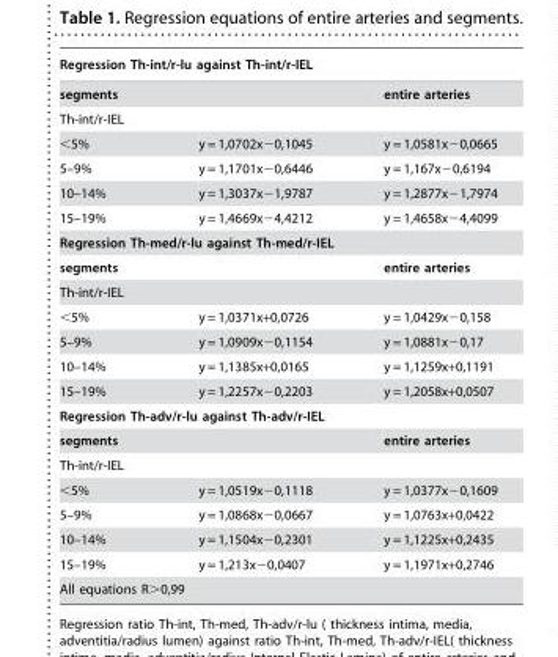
<table><thead><tr><td colspan="3">Regression Th-int/r-lu against Th-int/r-IEL</td></tr><tr><td colspan="2">segments</td><td>entire arteries</td></tr><tr><td colspan="3">Th-int/r-IEL</td></tr><tr><td>&lt;5%</td><td>y = 1,0702x−0,1045</td><td>y = 1,0581x−0,0665</td></tr></thead><tbody><tr><td>5–9%</td><td>y = 1,1701x−0,6446</td><td>y = 1,167x−0,6194</td></tr><tr><td>10–14%</td><td>y = 1,3037x−1,9787</td><td>y = 1,2877x−1,7974</td></tr><tr><td>15–19%</td><td>y = 1,4669x−4,4212</td><td>y = 1,4658x−4,4099</td></tr><tr><td colspan="3">Regression Th-med/r-lu against Th-med/r-IEL</td></tr><tr><td colspan="2">segments</td><td>entire arteries</td></tr><tr><td colspan="3">Th-int/r-IEL</td></tr><tr><td>&lt;5%</td><td>y = 1,0371x+0,0726</td><td>y = 1,0429x−0,158</td></tr><tr><td>5–9%</td><td>y = 1,0909x−0,1154</td><td>y = 1,0881x−0,17</td></tr><tr><td>10–14%</td><td>y = 1,1385x+0,0165</td><td>y = 1,1259x+0,1191</td></tr><tr><td>15–19%</td><td>y = 1,2257x−0,2203</td><td>y = 1,2058x+0,0507</td></tr><tr><td colspan="3">Regression Th-adv/r-lu against Th-adv/r-IEL</td></tr><tr><td colspan="2">segments</td><td>entire arteries</td></tr><tr><td colspan="3">Th-int/r-IEL</td></tr><tr><td>&lt;5%</td><td>y = 1,0519x−0,1118</td><td>y = 1,0377x−0,1609</td></tr><tr><td>5–9%</td><td>y = 1,0868x−0,0667</td><td>y = 1,0763x+0,0422</td></tr><tr><td>10–14%</td><td>y = 1,1504x−0,2301</td><td>y = 1,1225x+0,2435</td></tr><tr><td>15–19%</td><td>y = 1,213x−0,0407</td><td>y = 1,1971x+0,2746</td></tr><tr><td colspan="3">All equations R&gt;0,99</td></tr></tbody></table>